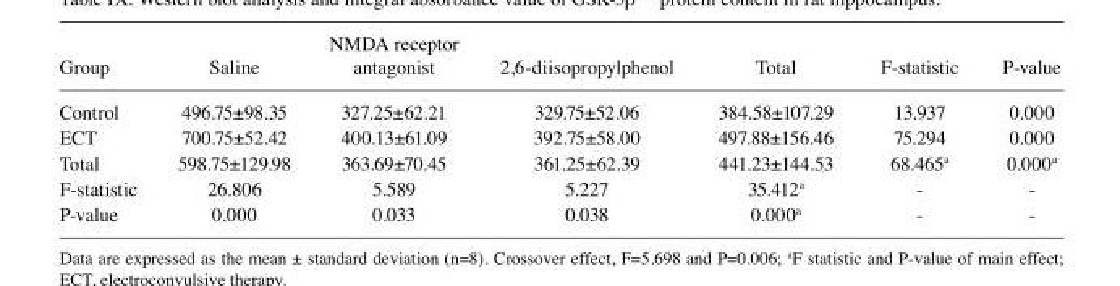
<table><thead><tr><td>Group</td><td>Saline</td><td>antagonist</td><td>2,6-diisopropylphenol</td><td>Total</td><td>F-statistic</td><td>P-value</td></tr></thead><tbody><tr><td>Control</td><td>496.75±98.35</td><td>327.25±62.21</td><td>329.75±52.06</td><td>384.58±107.29</td><td>13.937</td><td>0.000</td></tr><tr><td>ECT</td><td>700.75±52.42</td><td>400.13±61.09</td><td>392.75±58.00</td><td>497.88±156.46</td><td>75.294</td><td>0.000</td></tr><tr><td>Total</td><td>598.75±129.98</td><td>363.69±70.45</td><td>361.25±62.39</td><td>441.23±144.53</td><td>68.465<sup>a</sup></td><td>0.000<sup>a</sup></td></tr><tr><td>F-statistic</td><td>26.806</td><td>5.589</td><td>5.227</td><td>35.412<sup>a</sup></td><td>-</td><td>-</td></tr><tr><td>P-value</td><td>0.000</td><td>0.033</td><td>0.038</td><td>0.000<sup>a</sup></td><td>-</td><td>-</td></tr></tbody></table>